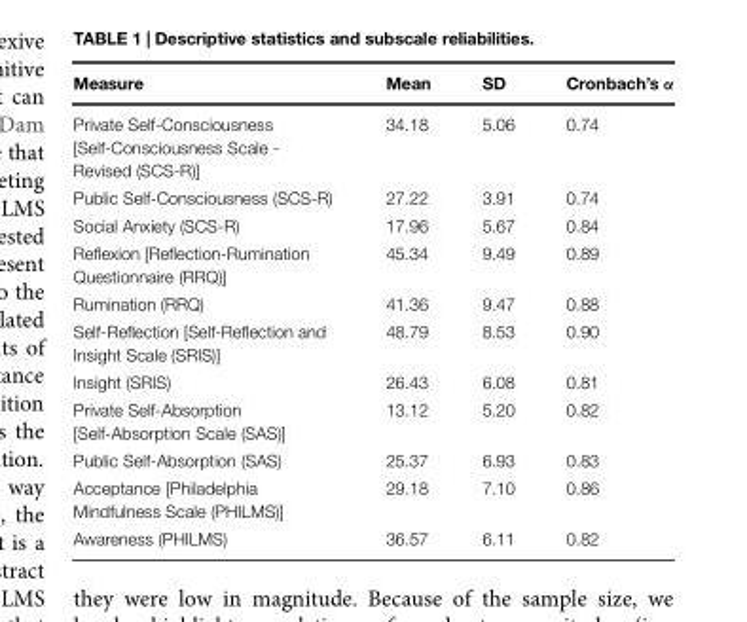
<table><thead><tr><td>Measure</td><td>Mean</td><td>SD</td><td>Cronbach’s α</td></tr></thead><tbody><tr><td>Private Self-Consciousness [Self-Consciousness Scale - Revised (SCS-R)]</td><td>34.18</td><td>5.06</td><td>0.74</td></tr><tr><td>Public Self-Consciousness (SCS-R)</td><td>27.22</td><td>3.91</td><td>0.74</td></tr><tr><td>Social Anxiety (SCS-R)</td><td>17.96</td><td>5.67</td><td>0.84</td></tr><tr><td>Reflexion [Reflection-Rumination Questionnaire (RRQ)]</td><td>45.34</td><td>9.49</td><td>0.89</td></tr><tr><td>Rumination (RRQ)</td><td>41.36</td><td>9.47</td><td>0.88</td></tr><tr><td>Self-Reflection [Self-Reflection and Insight Scale (SRIS)]</td><td>48.79</td><td>8.53</td><td>0.90</td></tr><tr><td>Insight (SRIS)</td><td>26.43</td><td>6.08</td><td>0.81</td></tr><tr><td>Private Self-Absorption [Self-Absorption Scale (SAS)]</td><td>13.12</td><td>5.20</td><td>0.82</td></tr><tr><td>Public Self-Absorption (SAS)</td><td>25.37</td><td>6.93</td><td>0.83</td></tr><tr><td>Acceptance [Philadelphia Mindfulness Scale (PHILMS)]</td><td>29.18</td><td>7.10</td><td>0.86</td></tr><tr><td>Awareness (PHILMS)</td><td>36.57</td><td>6.11</td><td>0.82</td></tr></tbody></table>